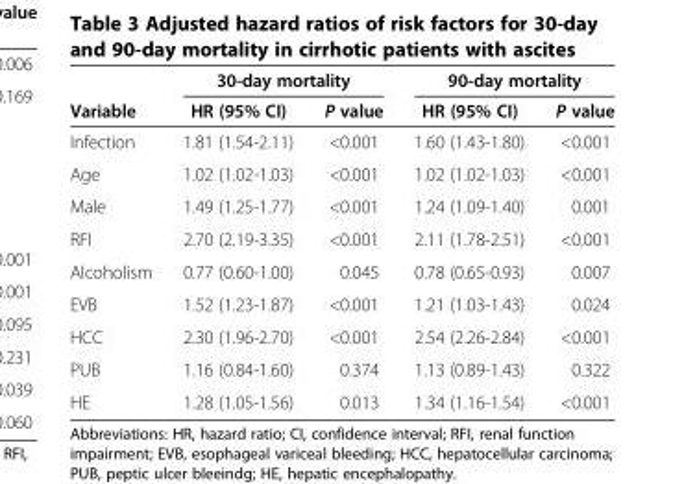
<table><thead><tr><td rowspan="2">Variable</td><td colspan="2">30-day mortality</td><td colspan="2">90-day mortality</td></tr><tr><td>HR (95% CI)</td><td>P value</td><td>HR (95% CI)</td><td>P value</td></tr></thead><tbody><tr><td>Infection</td><td>1.81 (1.54-2.11)</td><td>&lt;0.001</td><td>1.60 (1.43-1.80)</td><td>&lt;0.001</td></tr><tr><td>Age</td><td>1.02 (1.02-1.03)</td><td>&lt;0.001</td><td>1.02 (1.02-1.03)</td><td>&lt;0.001</td></tr><tr><td>Male</td><td>1.49 (1.25-1.77)</td><td>&lt;0.001</td><td>1.24 (1.09-1.40)</td><td>0.001</td></tr><tr><td>RFI</td><td>2.70 (2.19-3.35)</td><td>&lt;0.001</td><td>2.11 (1.78-2.51)</td><td>&lt;0.001</td></tr><tr><td>Alcoholism</td><td>0.77 (0.60-1.00)</td><td>0.045</td><td>0.78 (0.65-0.93)</td><td>0.007</td></tr><tr><td>EVB</td><td>1.52 (1.23-1.87)</td><td>&lt;0.001</td><td>1.21 (1.03-1.43)</td><td>0.024</td></tr><tr><td>HCC</td><td>2.30 (1.96-2.70)</td><td>&lt;0.001</td><td>2.54 (2.26-2.84)</td><td>&lt;0.001</td></tr><tr><td>PUB</td><td>1.16 (0.84-1.60)</td><td>0.374</td><td>1.13 (0.89-1.43)</td><td>0.322</td></tr><tr><td>HE</td><td>1.28 (1.05-1.56)</td><td>0.013</td><td>1.34 (1.16-1.54)</td><td>&lt;0.001</td></tr></tbody></table>